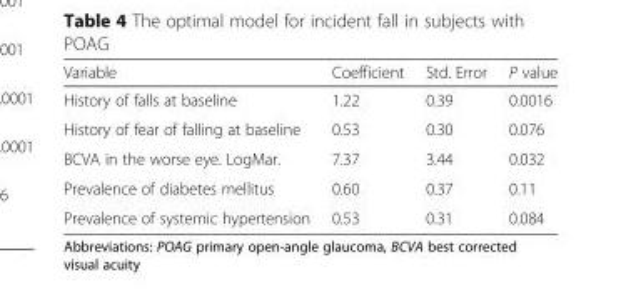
<table><thead><tr><td>Variable</td><td>Coefficient</td><td>Std. Error</td><td>P value</td></tr></thead><tbody><tr><td>History of falls at baseline</td><td>1.22</td><td>0.39</td><td>0.0016</td></tr><tr><td>History of fear of falling at baseline</td><td>0.53</td><td>0.30</td><td>0.076</td></tr><tr><td>BCVA in the worse eye. LogMar.</td><td>7.37</td><td>3.44</td><td>0.032</td></tr><tr><td>Prevalence of diabetes mellitus</td><td>0.60</td><td>0.37</td><td>0.11</td></tr><tr><td>Prevalence of systemic hypertension</td><td>0.53</td><td>0.31</td><td>0.084</td></tr></tbody></table>